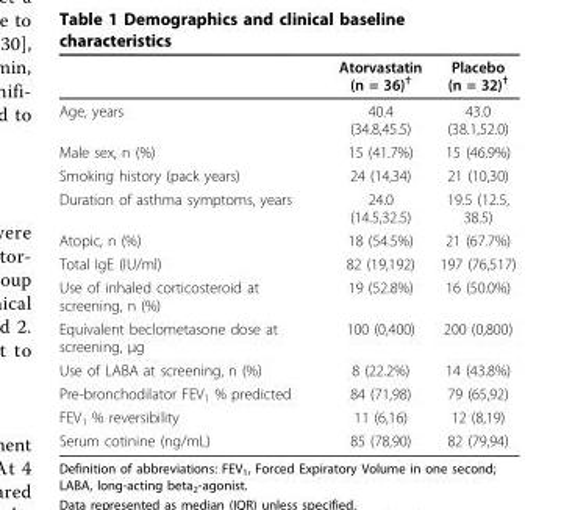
<table><thead><tr><td></td><td>Atorvastatin (n = 36)<sup>†</sup></td><td>Placebo (n = 32)<sup>†</sup></td></tr></thead><tbody><tr><td>Age, years</td><td>40.4 (34.8,45.5)</td><td>43.0 (38.1,52.0)</td></tr><tr><td>Male sex, n (%)</td><td>15 (41.7%)</td><td>15 (46.9%)</td></tr><tr><td>Smoking history (pack years)</td><td>24 (14,34)</td><td>21 (10,30)</td></tr><tr><td>Duration of asthma symptoms, years</td><td>24.0 (14.5,32.5)</td><td>19.5 (12.5, 38.5)</td></tr><tr><td>Atopic, n (%)</td><td>18 (54.5%)</td><td>21 (67.7%)</td></tr><tr><td>Total IgE (IU/ml)</td><td>82 (19,192)</td><td>197 (76,517)</td></tr><tr><td>Use of inhaled corticosteroid at screening, n (%)</td><td>19 (52.8%)</td><td>16 (50.0%)</td></tr><tr><td>Equivalent beclometasone dose at screening, μg</td><td>100 (0,400)</td><td>200 (0,800)</td></tr><tr><td>Use of LABA at screening, n (%)</td><td>8 (22.2%)</td><td>14 (43.8%)</td></tr><tr><td>Pre-bronchodilator FEV<sub>1</sub> % predicted</td><td>84 (71,98)</td><td>79 (65,92)</td></tr><tr><td>FEV<sub>1</sub> % reversibility</td><td>11 (6,16)</td><td>12 (8,19)</td></tr><tr><td>Serum cotinine (ng/mL)</td><td>85 (78,90)</td><td>82 (79,94)</td></tr></tbody></table>